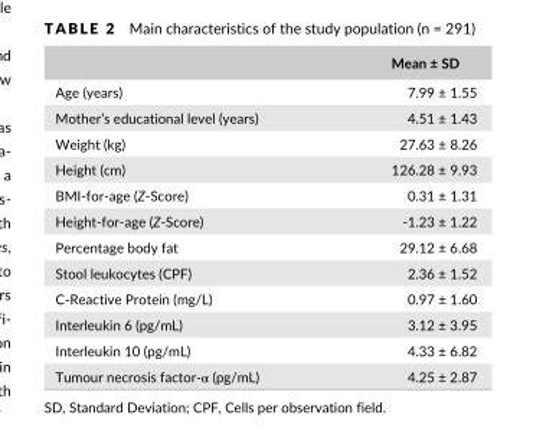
<table><thead><tr><td></td><td>Mean ± SD</td></tr></thead><tbody><tr><td>Age (years)</td><td>7.99 ± 1.55</td></tr><tr><td>Mother’s educational level (years)</td><td>4.51 ± 1.43</td></tr><tr><td>Weight (kg)</td><td>27.63 ± 8.26</td></tr><tr><td>Height (cm)</td><td>126.28 ± 9.93</td></tr><tr><td>BMI- for- age (Z- Score)</td><td>0.31 ± 1.31</td></tr><tr><td>Height- for- age (Z- Score)</td><td>- 1.23 ± 1.22</td></tr><tr><td>Percentage body fat</td><td>29.12 ± 6.68</td></tr><tr><td>Stool leukocytes (CPF)</td><td>2.36 ± 1.52</td></tr><tr><td>C- Reactive Protein (mg/L)</td><td>0.97 ± 1.60</td></tr><tr><td>Interleukin 6 (pg/mL)</td><td>3.12 ± 3.95</td></tr><tr><td>Interleukin 10 (pg/mL)</td><td>4.33 ± 6.82</td></tr><tr><td>Tumour necrosis factor- α (pg/mL)</td><td>4.25 ± 2.87</td></tr></tbody></table>